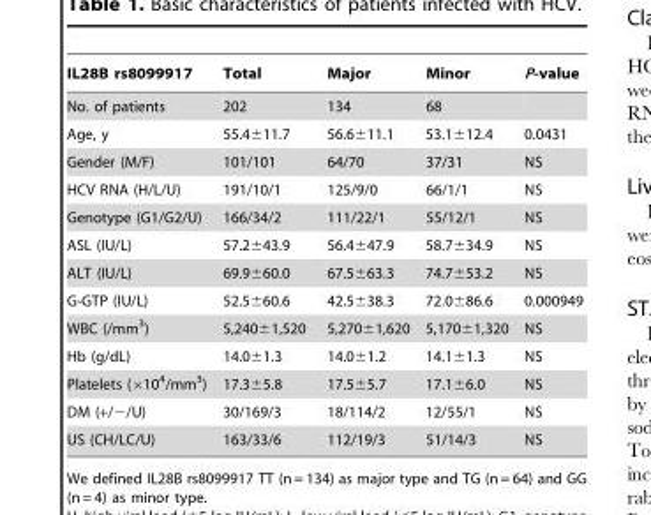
<table><thead><tr><td>IL28B rs8099917</td><td>Total</td><td>Major</td><td>Minor</td><td>P-value</td></tr></thead><tbody><tr><td>No. of patients</td><td>202</td><td>134</td><td>68</td><td></td></tr><tr><td>Age, y</td><td>55.4±11.7</td><td>56.6±11.1</td><td>53.1±12.4</td><td>0.0431</td></tr><tr><td>Gender (M/F)</td><td>101/101</td><td>64/70</td><td>37/31</td><td>NS</td></tr><tr><td>HCV RNA (H/L/U)</td><td>191/10/1</td><td>125/9/0</td><td>66/1/1</td><td>NS</td></tr><tr><td>Genotype (G1/G2/U)</td><td>166/34/2</td><td>111/22/1</td><td>55/12/1</td><td>NS</td></tr><tr><td>ASL (IU/L)</td><td>57.2±43.9</td><td>56.4±47.9</td><td>58.7±34.9</td><td>NS</td></tr><tr><td>ALT (IU/L)</td><td>69.9±60.0</td><td>67.5±63.3</td><td>74.7±53.2</td><td>NS</td></tr><tr><td>G-GTP (IU/L)</td><td>52.5±60.6</td><td>42.5±38.3</td><td>72.0±86.6</td><td>0.000949</td></tr><tr><td>WBC (/mm<sup>3</sup>)</td><td>5,240±1,520</td><td>5,270±1,620</td><td>5,170±1,320</td><td>NS</td></tr><tr><td>Hb (g/dL)</td><td>14.0±1.3</td><td>14.0±1.2</td><td>14.1±1.3</td><td>NS</td></tr><tr><td>Platelets (×10<sup>4</sup>/mm<sup>3</sup>)</td><td>17.3±5.8</td><td>17.5±5.7</td><td>17.1±6.0</td><td>NS</td></tr><tr><td>DM (+/−/U)</td><td>30/169/3</td><td>18/114/2</td><td>12/55/1</td><td>NS</td></tr><tr><td>US (CH/LC/U)</td><td>163/33/6</td><td>112/19/3</td><td>51/14/3</td><td>NS</td></tr></tbody></table>